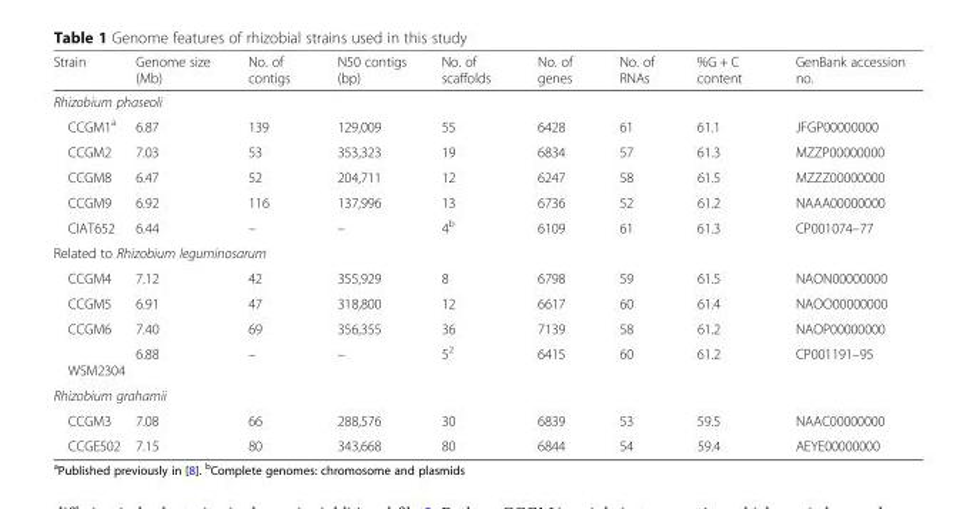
<table><thead><tr><td>Strain</td><td>Genome size (Mb)</td><td>No. of contigs</td><td>N50 contigs (bp)</td><td>No. of scaffolds</td><td>No. of genes</td><td>No. of RNAs</td><td>%G + C content</td><td>GenBank accession no.</td></tr></thead><tbody><tr><td colspan="9">Rhizobium phaseoli</td></tr><tr><td>CCGM1<sup>a</sup></td><td>6.87</td><td>139</td><td>129,009</td><td>55</td><td>6428</td><td>61</td><td>61.1</td><td>JFGP00000000</td></tr><tr><td>CCGM2</td><td>7.03</td><td>53</td><td>353,323</td><td>19</td><td>6834</td><td>57</td><td>61.3</td><td>MZZP00000000</td></tr><tr><td>CCGM8</td><td>6.47</td><td>52</td><td>204,711</td><td>12</td><td>6247</td><td>58</td><td>61.5</td><td>MZZZ00000000</td></tr><tr><td>CCGM9</td><td>6.92</td><td>116</td><td>137,996</td><td>13</td><td>6736</td><td>52</td><td>61.2</td><td>NAAA00000000</td></tr><tr><td>CIAT652</td><td>6.44</td><td>–</td><td>–</td><td>4<sup>b</sup></td><td>6109</td><td>61</td><td>61.3</td><td>CP001074–77</td></tr><tr><td colspan="9">Related to Rhizobium leguminosarum</td></tr><tr><td>CCGM4</td><td>7.12</td><td>42</td><td>355,929</td><td>8</td><td>6798</td><td>59</td><td>61.5</td><td>NAON00000000</td></tr><tr><td>CCGM5</td><td>6.91</td><td>47</td><td>318,800</td><td>12</td><td>6617</td><td>60</td><td>61.4</td><td>NAOO00000000</td></tr><tr><td>CCGM6</td><td>7.40</td><td>69</td><td>356,355</td><td>36</td><td>7139</td><td>58</td><td>61.2</td><td>NAOP00000000</td></tr><tr><td>WSM2304</td><td>6.88</td><td>–</td><td>–</td><td>5<sup>2</sup></td><td>6415</td><td>60</td><td>61.2</td><td>CP001191–95</td></tr><tr><td colspan="9">Rhizobium grahamii</td></tr><tr><td>CCGM3</td><td>7.08</td><td>66</td><td>288,576</td><td>30</td><td>6839</td><td>53</td><td>59.5</td><td>NAAC00000000</td></tr><tr><td>CCGE502</td><td>7.15</td><td>80</td><td>343,668</td><td>80</td><td>6844</td><td>54</td><td>59.4</td><td>AEYE00000000</td></tr></tbody></table>